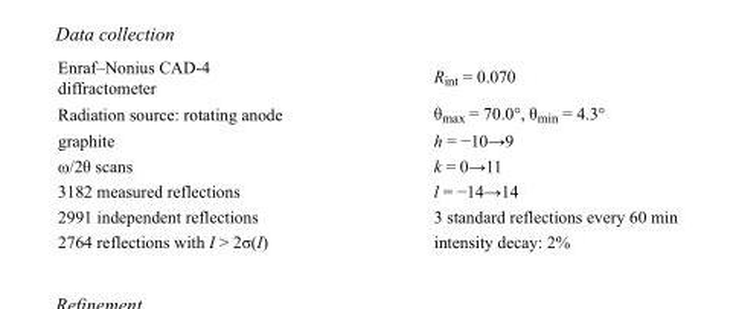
<table><tbody><tr><td>Enraf–Nonius CAD-4 diffractometer</td><td>R<sub>int</sub> = 0.070</td></tr><tr><td>Radiation source: rotating anode</td><td>θ<sub>max</sub> = 70.0°, θ<sub>min</sub> = 4.3°</td></tr><tr><td>graphite</td><td>h = −10→9</td></tr><tr><td>ω/2θ scans</td><td>k = 0→11</td></tr><tr><td>3182 measured reflections</td><td>l = −14→14</td></tr><tr><td>2991 independent reflections</td><td>3 standard reflections every 60 min</td></tr><tr><td>2764 reflections with I &gt; 2σ(I)</td><td>intensity decay: 2%</td></tr></tbody></table>